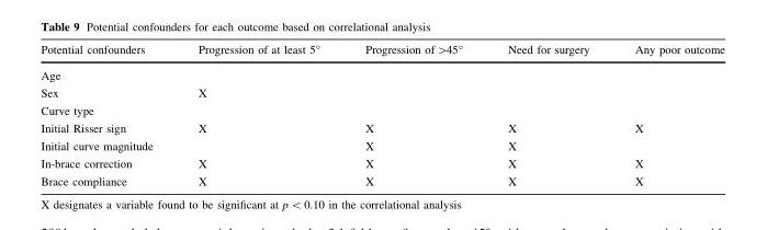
<table><thead><tr><td>Potential confounders</td><td>Progression of at least 5°</td><td>Progression of &gt;45°</td><td>Need for surgery</td><td>Any poor outcome</td></tr></thead><tbody><tr><td colspan="5">Age</td></tr><tr><td>Sex</td><td>X</td><td></td><td></td><td></td></tr><tr><td colspan="5">Curve type</td></tr><tr><td>Initial Risser sign</td><td>X</td><td>X</td><td>X</td><td>X</td></tr><tr><td>Initial curve magnitude</td><td></td><td>X</td><td>X</td><td></td></tr><tr><td>In-brace correction</td><td>X</td><td>X</td><td>X</td><td>X</td></tr><tr><td>Brace compliance</td><td>X</td><td>X</td><td>X</td><td>X</td></tr></tbody></table>